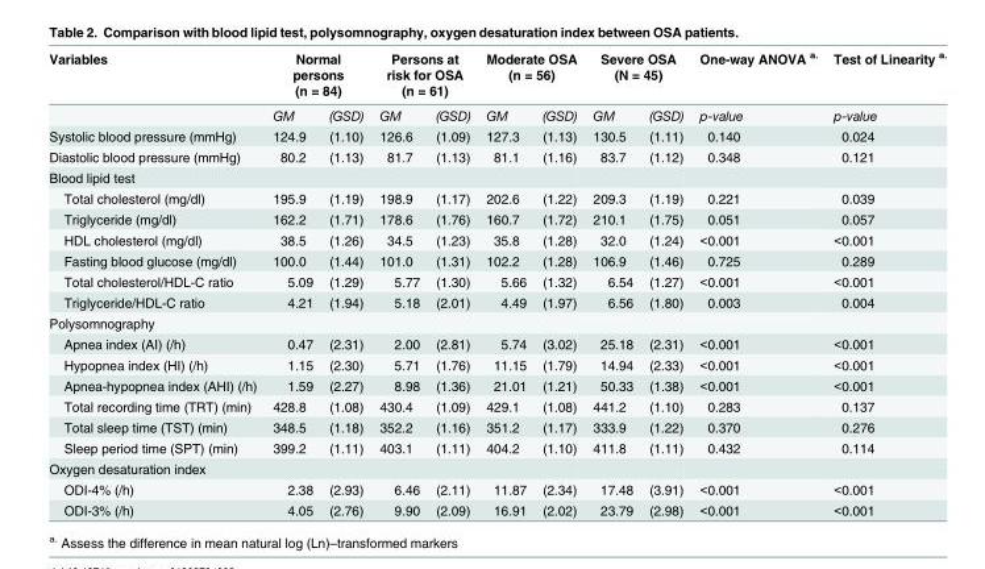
<table><thead><tr><td rowspan="2">Variables</td><td colspan="2">Normal persons (n = 84)</td><td colspan="2">Persons at risk for OSA (n = 61)</td><td colspan="2">Moderate OSA (n = 56)</td><td colspan="2">Severe OSA (N = 45)</td><td rowspan="2">One-way ANOVA <sup>a.</sup> p-value</td><td rowspan="2">Test of Linearity p-value</td></tr><tr><td>GM</td><td>(GSD)</td><td>GM</td><td>(GSD)</td><td>GM</td><td>(GSD)</td><td>GM</td><td>(GSD)</td></tr></thead><tbody><tr><td>Systolic blood pressure (mmHg)</td><td>124.9</td><td>(1.10)</td><td>126.6</td><td>(1.09)</td><td>127.3</td><td>(1.13)</td><td>130.5</td><td>(1.11)</td><td>0.140</td><td>0.024</td></tr><tr><td>Diastolic blood pressure (mmHg)</td><td>80.2</td><td>(1.13)</td><td>81.7</td><td>(1.13)</td><td>81.1</td><td>(1.16)</td><td>83.7</td><td>(1.12)</td><td>0.348</td><td>0.121</td></tr><tr><td colspan="11">Blood lipid test</td></tr><tr><td>Total cholesterol (mg/dl)</td><td>195.9</td><td>(1.19)</td><td>198.9</td><td>(1.17)</td><td>202.6</td><td>(1.22)</td><td>209.3</td><td>(1.19)</td><td>0.221</td><td>0.039</td></tr><tr><td>Triglyceride (mg/dl)</td><td>162.2</td><td>(1.71)</td><td>178.6</td><td>(1.76)</td><td>160.7</td><td>(1.72)</td><td>210.1</td><td>(1.75)</td><td>0.051</td><td>0.057</td></tr><tr><td>HDL cholesterol (mg/dl)</td><td>38.5</td><td>(1.26)</td><td>34.5</td><td>(1.23)</td><td>35.8</td><td>(1.28)</td><td>32.0</td><td>(1.24)</td><td>&lt;0.001</td><td>&lt;0.001</td></tr><tr><td>Fasting blood glucose (mg/dl)</td><td>100.0</td><td>(1.44)</td><td>101.0</td><td>(1.31)</td><td>102.2</td><td>(1.28)</td><td>106.9</td><td>(1.46)</td><td>0.725</td><td>0.289</td></tr><tr><td>Total cholesterol/HDL-C ratio</td><td>5.09</td><td>(1.29)</td><td>5.77</td><td>(1.30)</td><td>5.66</td><td>(1.32)</td><td>6.54</td><td>(1.27)</td><td>&lt;0.001</td><td>&lt;0.001</td></tr><tr><td>Triglyceride/HDL-C ratio</td><td>4.21</td><td>(1.94)</td><td>5.18</td><td>(2.01)</td><td>4.49</td><td>(1.97)</td><td>6.56</td><td>(1.80)</td><td>0.003</td><td>0.004</td></tr><tr><td colspan="11">Polysomnography</td></tr><tr><td>Apnea index (AI) (/h)</td><td>0.47</td><td>(2.31)</td><td>2.00</td><td>(2.81)</td><td>5.74</td><td>(3.02)</td><td>25.18</td><td>(2.31)</td><td>&lt;0.001</td><td>&lt;0.001</td></tr><tr><td>Hypopnea index (HI) (/h)</td><td>1.15</td><td>(2.30)</td><td>5.71</td><td>(1.76)</td><td>11.15</td><td>(1.79)</td><td>14.94</td><td>(2.33)</td><td>&lt;0.001</td><td>&lt;0.001</td></tr><tr><td>Apnea-hypopnea index (AHI) (/h)</td><td>1.59</td><td>(2.27)</td><td>8.98</td><td>(1.36)</td><td>21.01</td><td>(1.21)</td><td>50.33</td><td>(1.38)</td><td>&lt;0.001</td><td>&lt;0.001</td></tr><tr><td>Total recording time (TRT) (min)</td><td>428.8</td><td>(1.08)</td><td>430.4</td><td>(1.09)</td><td>429.1</td><td>(1.08)</td><td>441.2</td><td>(1.10)</td><td>0.283</td><td>0.137</td></tr><tr><td>Total sleep time (TST) (min)</td><td>348.5</td><td>(1.18)</td><td>352.2</td><td>(1.16)</td><td>351.2</td><td>(1.17)</td><td>333.9</td><td>(1.22)</td><td>0.370</td><td>0.276</td></tr><tr><td>Sleep period time (SPT) (min)</td><td>399.2</td><td>(1.11)</td><td>403.1</td><td>(1.11)</td><td>404.2</td><td>(1.10)</td><td>411.8</td><td>(1.11)</td><td>0.432</td><td>0.114</td></tr><tr><td colspan="11">Oxygen desaturation index</td></tr><tr><td>ODI-4% (/h)</td><td>2.38</td><td>(2.93)</td><td>6.46</td><td>(2.11)</td><td>11.87</td><td>(2.34)</td><td>17.48</td><td>(3.91)</td><td>&lt;0.001</td><td>&lt;0.001</td></tr><tr><td>ODI-3% (/h)</td><td>4.05</td><td>(2.76)</td><td>9.90</td><td>(2.09)</td><td>16.91</td><td>(2.02)</td><td>23.79</td><td>(2.98)</td><td>&lt;0.001</td><td>&lt;0.001</td></tr></tbody></table>